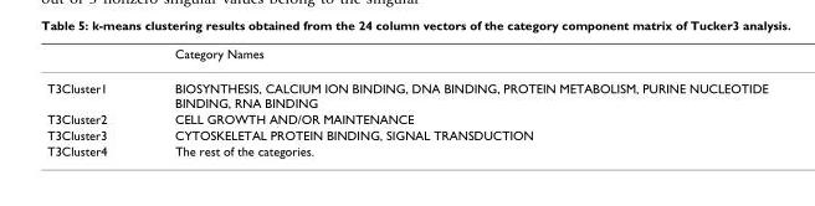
<table><thead><tr><td></td><td>Category Names</td></tr></thead><tbody><tr><td>T3Cluster1</td><td>BIOSYNTHESIS, CALCIUM ION BINDING, DNA BINDING, PROTEIN METABOLISM, PURINE NUCLEOTIDE BINDING, RNA BINDING</td></tr><tr><td>T3Cluster2</td><td>CELL GROWTH AND/OR MAINTENANCE</td></tr><tr><td>T3Cluster3</td><td>CYTOSKELETAL PROTEIN BINDING, SIGNAL TRANSDUCTION</td></tr><tr><td>T3Cluster4</td><td>The rest of the categories.</td></tr></tbody></table>